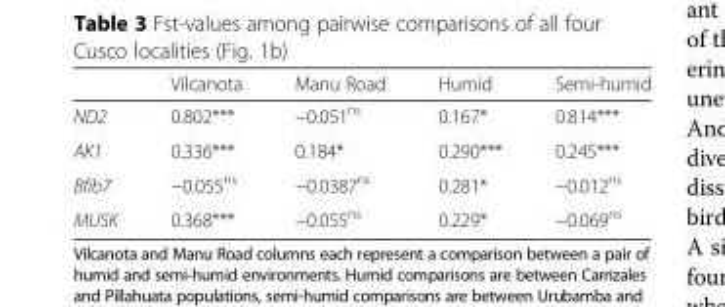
<table><thead><tr><td></td><td>Vilcanota</td><td>Manu Road</td><td>Humid</td><td>Semi-humid</td></tr></thead><tbody><tr><td>ND2</td><td>0.802***</td><td>−0.051<sup>ns</sup></td><td>0.167*</td><td>0.814***</td></tr><tr><td>AK1</td><td>0.336***</td><td>0.184*</td><td>0.290***</td><td>0.245***</td></tr><tr><td>Bfib7</td><td>−0.055<sup>ns</sup></td><td>−0.0387<sup>ns</sup></td><td>0.281*</td><td>−0.012<sup>ns</sup></td></tr><tr><td>MUSK</td><td>0.368***</td><td>−0.055<sup>ns</sup></td><td>0.229*</td><td>−0.069<sup>ns</sup></td></tr></tbody></table>